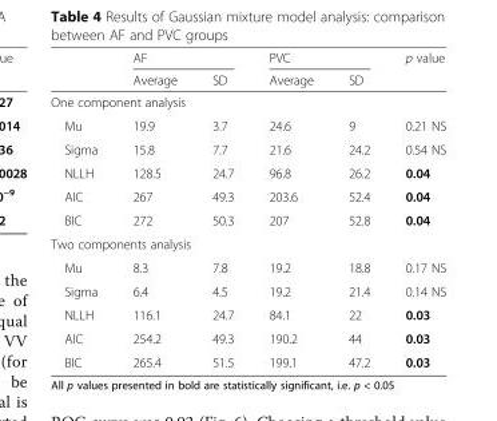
<table><thead><tr><td rowspan="2"></td><td colspan="2">AF</td><td colspan="2">PVC</td><td rowspan="2">p value</td></tr><tr><td>Average</td><td>SD</td><td>Average</td><td>SD</td></tr></thead><tbody><tr><td colspan="6">One component analysis</td></tr><tr><td>Mu</td><td>19.9</td><td>3.7</td><td>24.6</td><td>9</td><td>0.21 NS</td></tr><tr><td>Sigma</td><td>15.8</td><td>7.7</td><td>21.6</td><td>24.2</td><td>0.54 NS</td></tr><tr><td>NLLH</td><td>128.5</td><td>24.7</td><td>96.8</td><td>26.2</td><td>0.04</td></tr><tr><td>AIC</td><td>267</td><td>49.3</td><td>203.6</td><td>52.4</td><td>0.04</td></tr><tr><td>BIC</td><td>272</td><td>50.3</td><td>207</td><td>52.8</td><td>0.04</td></tr><tr><td colspan="6">Two components analysis</td></tr><tr><td>Mu</td><td>8.3</td><td>7.8</td><td>19.2</td><td>18.8</td><td>0.17 NS</td></tr><tr><td>Sigma</td><td>6.4</td><td>4.5</td><td>19.2</td><td>21.4</td><td>0.14 NS</td></tr><tr><td>NLLH</td><td>116.1</td><td>24.7</td><td>84.1</td><td>22</td><td>0.03</td></tr><tr><td>AIC</td><td>254.2</td><td>49.3</td><td>190.2</td><td>44</td><td>0.03</td></tr><tr><td>BIC</td><td>265.4</td><td>51.5</td><td>199.1</td><td>47.2</td><td>0.03</td></tr></tbody></table>